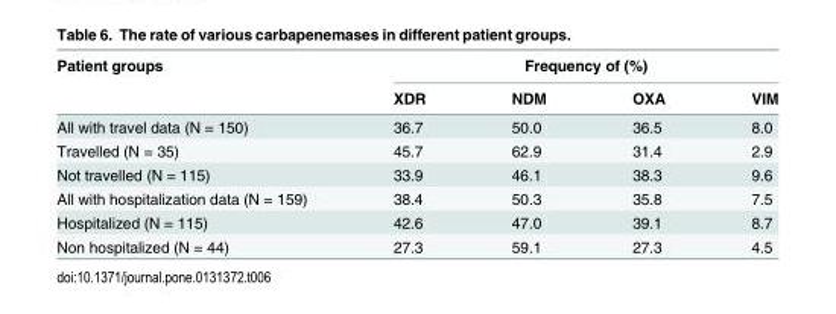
<table><thead><tr><td rowspan="2">Patient groups</td><td colspan="4">Frequency of (%)</td></tr><tr><td>XDR</td><td>NDM</td><td>OXA</td><td>VIM</td></tr></thead><tbody><tr><td>All with travel data (N = 150)</td><td>36.7</td><td>50.0</td><td>36.5</td><td>8.0</td></tr><tr><td>Travelled (N = 35)</td><td>45.7</td><td>62.9</td><td>31.4</td><td>2.9</td></tr><tr><td>Not travelled (N = 115)</td><td>33.9</td><td>46.1</td><td>38.3</td><td>9.6</td></tr><tr><td>All with hospitalization data (N = 159)</td><td>38.4</td><td>50.3</td><td>35.8</td><td>7.5</td></tr><tr><td>Hospitalized (N = 115)</td><td>42.6</td><td>47.0</td><td>39.1</td><td>8.7</td></tr><tr><td>Non hospitalized (N = 44)</td><td>27.3</td><td>59.1</td><td>27.3</td><td>4.5</td></tr></tbody></table>